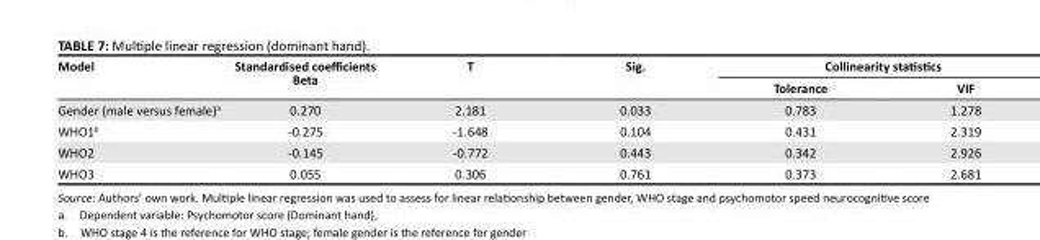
<table><thead><tr><td rowspan="2">Model</td><td rowspan="2">Standardised coefficients Beta</td><td rowspan="2">T</td><td rowspan="2">Sig.</td><td colspan="2">Collinearity statistics</td></tr><tr><td>Tolerance</td><td>VIF</td></tr></thead><tbody><tr><td>Gender (male versus female)<sup>a</sup></td><td>0.270</td><td>2.181</td><td>0.033</td><td>0.783</td><td>1.278</td></tr><tr><td>WHO1<sup>b</sup></td><td>-0.275</td><td>-1.648</td><td>0.104</td><td>0.431</td><td>2.319</td></tr><tr><td>WHO2</td><td>-0.145</td><td>-0.772</td><td>0.443</td><td>0.342</td><td>2.926</td></tr><tr><td>WHO3</td><td>0.055</td><td>0.306</td><td>0.761</td><td>0.373</td><td>2.681</td></tr></tbody></table>